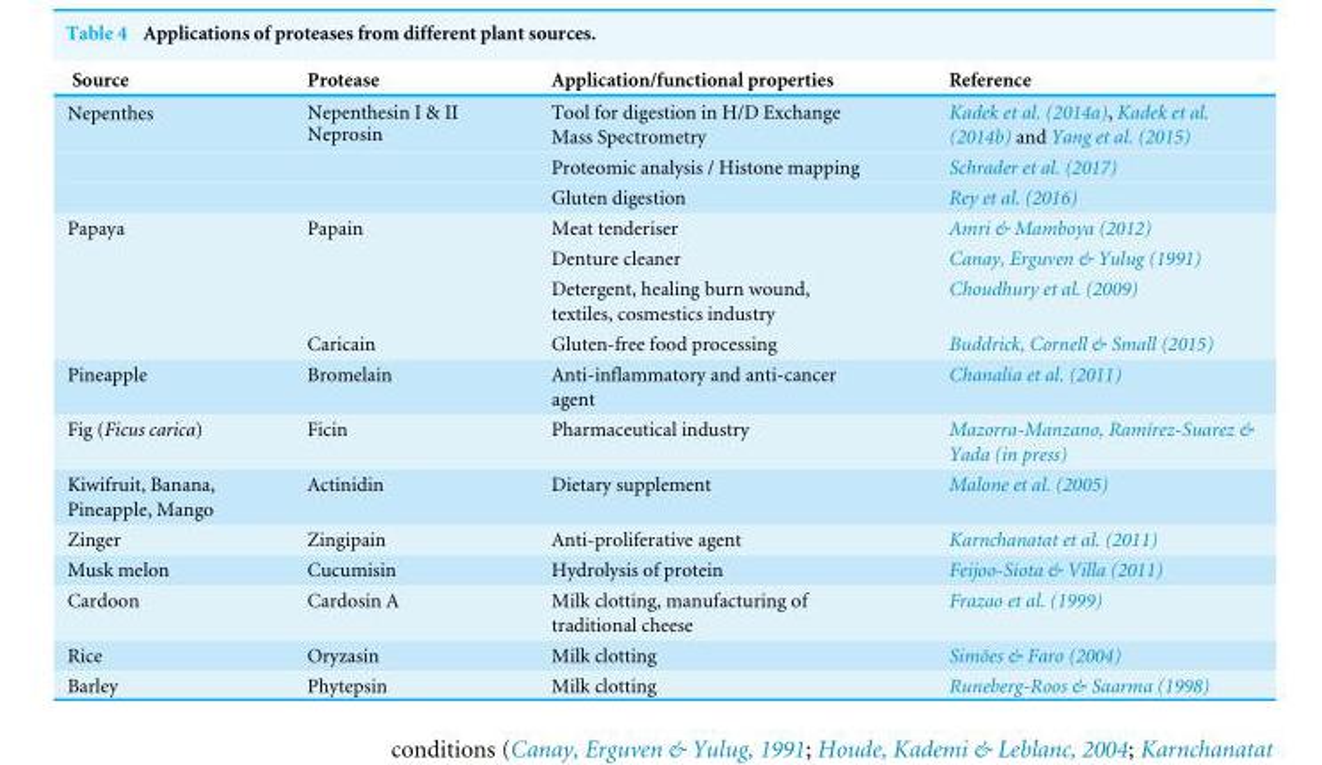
<table><thead><tr><td>Source</td><td>Protease</td><td>Application/functional properties</td><td>Reference</td></tr></thead><tbody><tr><td rowspan="3">Nepenthes</td><td>Nepenthesin I &amp; II Neprosin</td><td>Tool for digestion in H/D Exchange Mass Spectrometry</td><td>Kadek et al. (2014a), Kadek et al. (2014b) and Yang et al. (2015)</td></tr><tr><td rowspan="2"></td><td>Proteomic analysis / Histone mapping</td><td>Schrader et al. (2017)</td></tr><tr><td>Gluten digestion</td><td>Rey et al. (2016)</td></tr><tr><td rowspan="4">Papaya</td><td>Papain</td><td>Meat tenderiser</td><td>Amri &amp; Mamboya (2012)</td></tr><tr><td></td><td>Denture cleaner</td><td>Canay, Erguven &amp; Yulug (1991)</td></tr><tr><td></td><td>Detergent, healing burn wound, textiles, cosmestics industry</td><td>Choudhury et al. (2009)</td></tr><tr><td>Caricain</td><td>Gluten-free food processing</td><td>Buddrick, Cornell &amp; Small (2015)</td></tr><tr><td>Pineapple</td><td>Bromelain</td><td>Anti-inflammatory and anti-cancer agent</td><td>Chanalia et al. (2011)</td></tr><tr><td>Fig (Ficus carica)</td><td>Ficin</td><td>Pharmaceutical industry</td><td>Mazorra-Manzano, Ramírez-Suarez &amp; Yada (in press)</td></tr><tr><td>Kiwifruit, Banana, Pineapple, Mango</td><td>Actinidin</td><td>Dietary supplement</td><td>Malone et al. (2005)</td></tr><tr><td>Zinger</td><td>Zingipain</td><td>Anti-proliferative agent</td><td>Karnchanatat et al. (2011)</td></tr><tr><td>Musk melon</td><td>Cucumisin</td><td>Hydrolysis of protein</td><td>Feijoo-Siota &amp; Villa (2011)</td></tr><tr><td>Cardoon</td><td>Cardosin A</td><td>Milk clotting, manufacturing of traditional cheese</td><td>Frazao et al. (1999)</td></tr><tr><td>Rice</td><td>Oryzasin</td><td>Milk clotting</td><td>Simões &amp; Faro (2004)</td></tr><tr><td>Barley</td><td>Phytepsin</td><td>Milk clotting</td><td>Runeberg-Roos &amp; Saarma (1998)</td></tr></tbody></table>